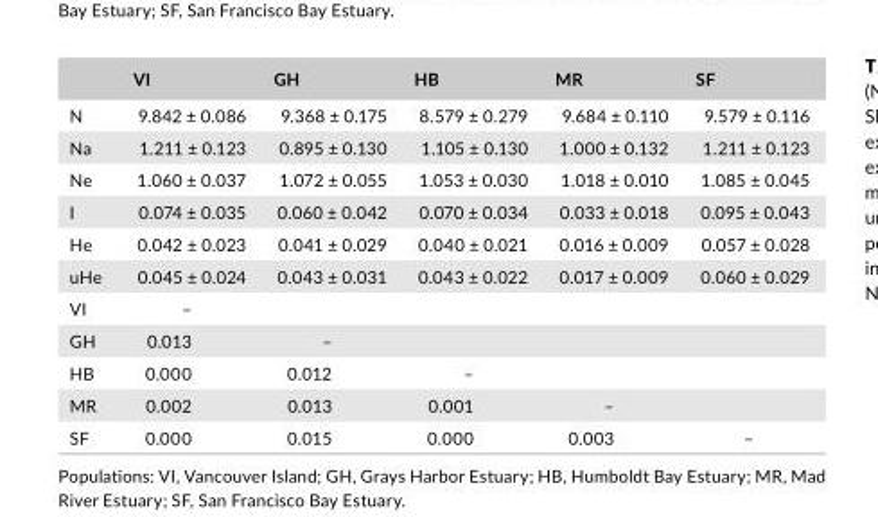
<table><thead><tr><td></td><td>VI</td><td>GH</td><td>HB</td><td>MR</td><td>SF</td></tr></thead><tbody><tr><td>N</td><td>9.842 ± 0.086</td><td>9.368 ± 0.175</td><td>8.579 ± 0.279</td><td>9.684 ± 0.110</td><td>9.579 ± 0.116</td></tr><tr><td>Na</td><td>1.211 ± 0.123</td><td>0.895 ± 0.130</td><td>1.105 ± 0.130</td><td>1.000 ± 0.132</td><td>1.211 ± 0.123</td></tr><tr><td>Ne</td><td>1.060 ± 0.037</td><td>1.072 ± 0.055</td><td>1.053 ± 0.030</td><td>1.018 ± 0.010</td><td>1.085 ± 0.045</td></tr><tr><td>I</td><td>0.074 ± 0.035</td><td>0.060 ± 0.042</td><td>0.070 ± 0.034</td><td>0.033 ± 0.018</td><td>0.095 ± 0.043</td></tr><tr><td>He</td><td>0.042 ± 0.023</td><td>0.041 ± 0.029</td><td>0.040 ± 0.021</td><td>0.016 ± 0.009</td><td>0.057 ± 0.028</td></tr><tr><td>uHe</td><td>0.045 ± 0.024</td><td>0.043 ± 0.031</td><td>0.043 ± 0.022</td><td>0.017 ± 0.009</td><td>0.060 ± 0.029</td></tr><tr><td>VI</td><td>–</td><td></td><td></td><td></td><td></td></tr><tr><td>GH</td><td>0.013</td><td>–</td><td></td><td></td><td></td></tr><tr><td>HB</td><td>0.000</td><td>0.012</td><td>–</td><td></td><td></td></tr><tr><td>MR</td><td>0.002</td><td>0.013</td><td>0.001</td><td>–</td><td></td></tr><tr><td>SF</td><td>0.000</td><td>0.015</td><td>0.000</td><td>0.003</td><td>–</td></tr></tbody></table>